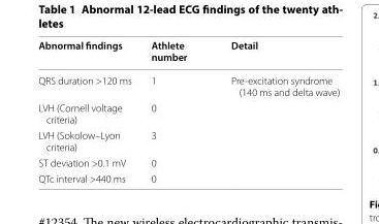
<table><thead><tr><td>Abnormal findings</td><td>Athlete number</td><td>Detail</td></tr></thead><tbody><tr><td>QRS duration &gt;120 ms</td><td>1</td><td>Pre-excitation syndrome (140 ms and delta wave)</td></tr><tr><td>LVH (Cornell voltage criteria)</td><td>0</td><td></td></tr><tr><td>LVH (Sokolow–Lyon criteria)</td><td>3</td><td></td></tr><tr><td>ST deviation &gt;0.1 mV</td><td>0</td><td></td></tr><tr><td>QTc interval &gt;440 ms</td><td>0</td><td></td></tr></tbody></table>